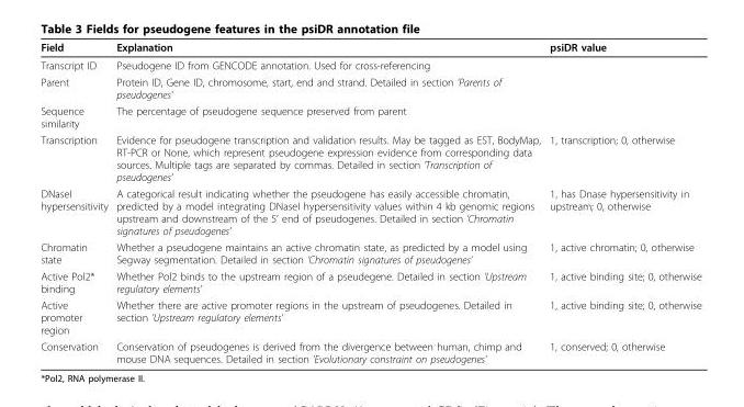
<table><thead><tr><td>Field</td><td>Explanation</td><td>psiDR value</td></tr></thead><tbody><tr><td>Transcript ID</td><td>Pseudogene ID from GENCODE annotation. Used for cross-referencing</td><td></td></tr><tr><td>Parent</td><td>Protein ID, Gene ID, chromosome, start, end and strand. Detailed in section ’Parents of pseudogenes’</td><td></td></tr><tr><td>Sequence similarity</td><td>The percentage of pseudogene sequence preserved from parent</td><td></td></tr><tr><td>Transcription</td><td>Evidence for pseudogene transcription and validation results. May be tagged as EST, BodyMap, RT-PCR or None, which represent pseudogene expression evidence from corresponding data sources. Multiple tags are separated by commas. Detailed in section ’Transcription of pseudogenes’</td><td>1, transcription; 0, otherwise</td></tr><tr><td>DNaseI hypersensitivity</td><td>A categorical result indicating whether the pseudogene has easily accessible chromatin, predicted by a model integrating DNaseI hypersensitivity values within 4 kb genomic regions upstream and downstream of the 5’ end of pseudogenes. Detailed in section ’Chromatin signatures of pseudogenes’</td><td>1, has Dnase hypersensitivity in upstream; 0, otherwise</td></tr><tr><td>Chromatin state</td><td>Whether a pseudogene maintains an active chromatin state, as predicted by a model using Segway segmentation. Detailed in section ’Chromatin signatures of pseudogenes’</td><td>1, active chromatin; 0, otherwise</td></tr><tr><td>Active Pol2* binding</td><td>Whether Pol2 binds to the upstream region of a pseudegene. Detailed in section ’Upstream regulatory elements’</td><td>1, active binding site; 0, otherwise</td></tr><tr><td>Active promoter region</td><td>Whether there are active promoter regions in the upstream of pseudogenes. Detailed in section ’Upstream regulatory elements’</td><td>1, active binding site; 0, otherwise</td></tr><tr><td>Conservation</td><td>Conservation of pseudogenes is derived from the divergence between human, chimp and mouse DNA sequences. Detailed in section ’Evolutionary constraint on pseudogenes’</td><td>1, conserved; 0, otherwise</td></tr></tbody></table>